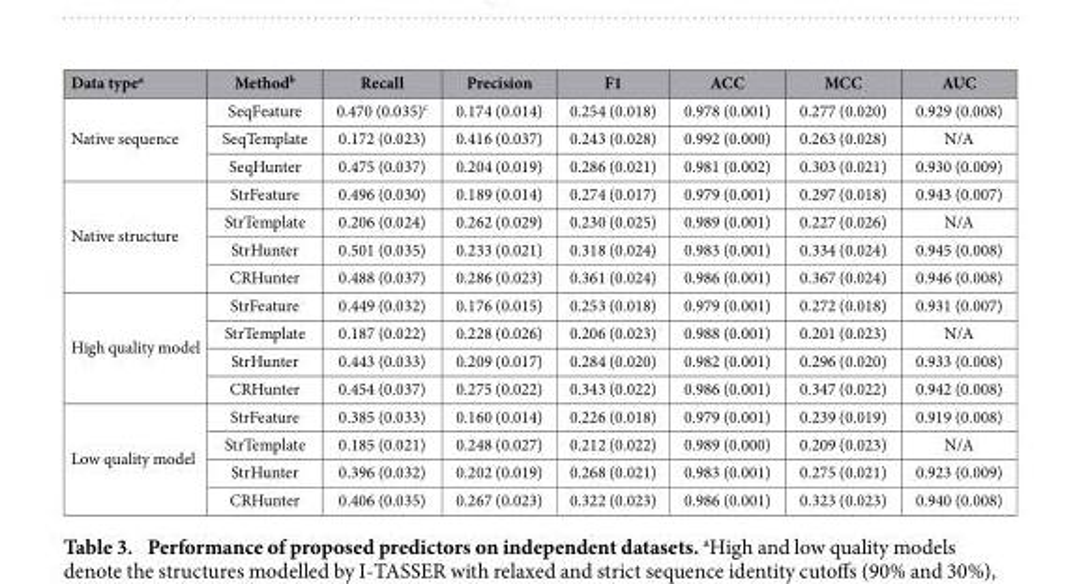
<table><thead><tr><td>Data type<sup>a</sup></td><td>Method<sup>b</sup></td><td>Recall</td><td>Precision</td><td>F1</td><td>ACC</td><td>MCC</td><td>AUC</td></tr></thead><tbody><tr><td rowspan="3">Native sequence</td><td>SeqFeature</td><td>0.470 (0.035)<sup>c</sup></td><td>0.174 (0.014)</td><td>0.254 (0.018)</td><td>0.978 (0.001)</td><td>0.277 (0.020)</td><td>0.929 (0.008)</td></tr><tr><td>SeqTemplate</td><td>0.172 (0.023)</td><td>0.416 (0.037)</td><td>0.243 (0.028)</td><td>0.992 (0.000)</td><td>0.263 (0.028)</td><td>N/A</td></tr><tr><td>SeqHunter</td><td>0.475 (0.037)</td><td>0.204 (0.019)</td><td>0.286 (0.021)</td><td>0.981 (0.002)</td><td>0.303 (0.021)</td><td>0.930 (0.009)</td></tr><tr><td rowspan="4">Native structure</td><td>StrFeature</td><td>0.496 (0.030)</td><td>0.189 (0.014)</td><td>0.274 (0.017)</td><td>0.979 (0.001)</td><td>0.297 (0.018)</td><td>0.943 (0.007)</td></tr><tr><td>StrTemplate</td><td>0.206 (0.024)</td><td>0.262 (0.029)</td><td>0.230 (0.025)</td><td>0.989 (0.001)</td><td>0.227 (0.026)</td><td>N/A</td></tr><tr><td>StrHunter</td><td>0.501 (0.035)</td><td>0.233 (0.021)</td><td>0.318 (0.024)</td><td>0.983 (0.001)</td><td>0.334 (0.024)</td><td>0.945 (0.008)</td></tr><tr><td>CRHunter</td><td>0.488 (0.037)</td><td>0.286 (0.023)</td><td>0.361 (0.024)</td><td>0.986 (0.001)</td><td>0.367 (0.024)</td><td>0.946 (0.008)</td></tr><tr><td rowspan="4">High quality model</td><td>StrFeature</td><td>0.449 (0.032)</td><td>0.176 (0.015)</td><td>0.253 (0.018)</td><td>0.979 (0.001)</td><td>0.272 (0.018)</td><td>0.931 (0.007)</td></tr><tr><td>StrTemplate</td><td>0.187 (0.022)</td><td>0.228 (0.026)</td><td>0.206 (0.023)</td><td>0.988 (0.001)</td><td>0.201 (0.023)</td><td>N/A</td></tr><tr><td>StrHunter</td><td>0.443 (0.033)</td><td>0.209 (0.017)</td><td>0.284 (0.020)</td><td>0.982 (0.001)</td><td>0.296 (0.020)</td><td>0.933 (0.008)</td></tr><tr><td>CRHunter</td><td>0.454 (0.037)</td><td>0.275 (0.022)</td><td>0.343 (0.022)</td><td>0.986 (0.001)</td><td>0.347 (0.022)</td><td>0.942 (0.008)</td></tr><tr><td rowspan="4">Low quality model</td><td>StrFeature</td><td>0.385 (0.033)</td><td>0.160 (0.014)</td><td>0.226 (0.018)</td><td>0.979 (0.001)</td><td>0.239 (0.019)</td><td>0.919 (0.008)</td></tr><tr><td>StrTemplate</td><td>0.185 (0.021)</td><td>0.248 (0.027)</td><td>0.212 (0.022)</td><td>0.989 (0.000)</td><td>0.209 (0.023)</td><td>N/A</td></tr><tr><td>StrHunter</td><td>0.396 (0.032)</td><td>0.202 (0.019)</td><td>0.268 (0.021)</td><td>0.983 (0.001)</td><td>0.275 (0.021)</td><td>0.923 (0.009)</td></tr><tr><td>CRHunter</td><td>0.406 (0.035)</td><td>0.267 (0.023)</td><td>0.322 (0.023)</td><td>0.986 (0.001)</td><td>0.323 (0.023)</td><td>0.940 (0.008)</td></tr></tbody></table>